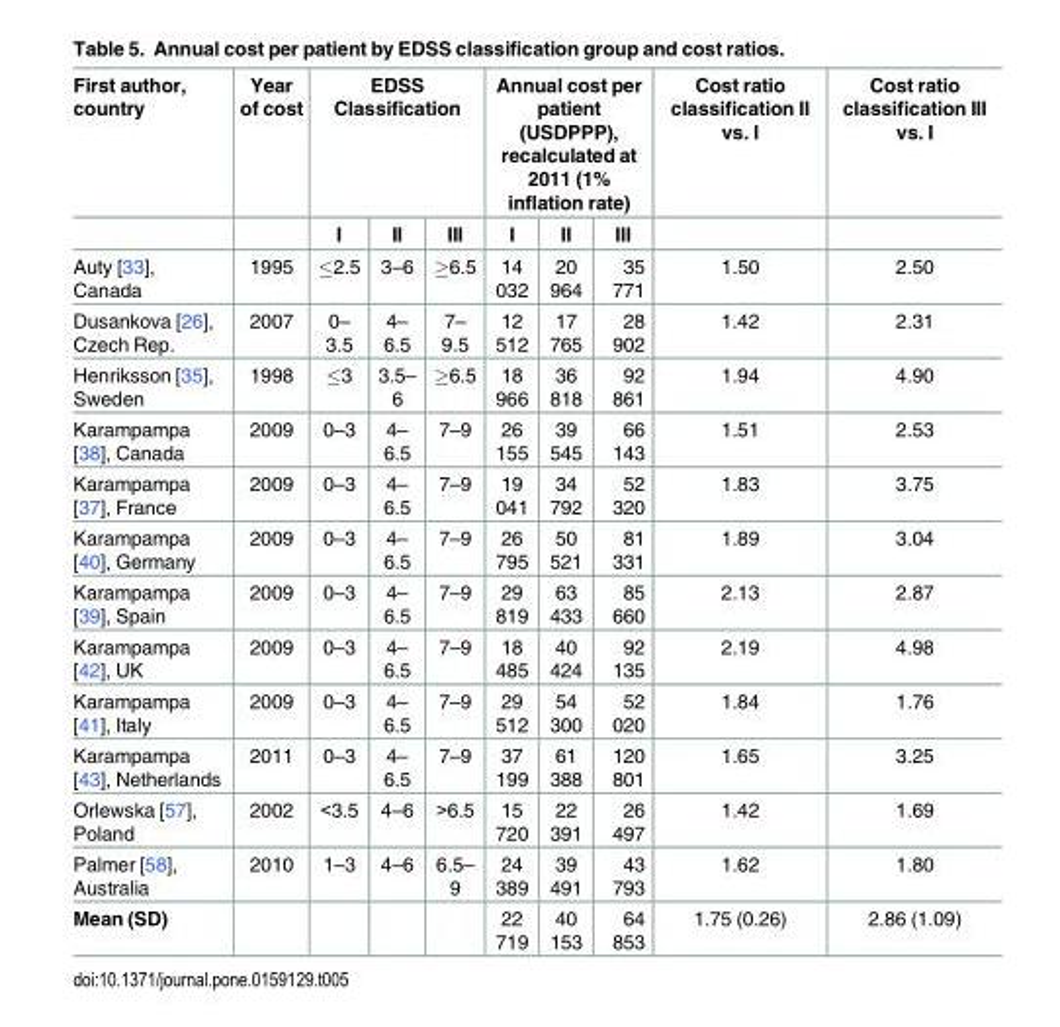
<table><thead><tr><td rowspan="2">First author, country</td><td rowspan="2">Year of cost</td><td colspan="3">EDSS Classification</td><td colspan="3">Annual cost per patient (USDPPP), recalculated at 2011 (1% inflation rate)</td><td rowspan="2">Cost ratio classification II vs. I</td><td rowspan="2">Cost ratio classification III vs. I</td></tr><tr><td>I</td><td>II</td><td>III</td><td>I</td><td>II</td><td>III</td></tr></thead><tbody><tr><td>Auty [33], Canada</td><td>1995</td><td>≤2.5</td><td>3–6</td><td>≥6.5</td><td>14 032</td><td>20 964</td><td>35 771</td><td>1.50</td><td>2.50</td></tr><tr><td>Dusankova [26], Czech Rep.</td><td>2007</td><td>0– 3.5</td><td>4– 6.5</td><td>7– 9.5</td><td>12 512</td><td>17 765</td><td>28 902</td><td>1.42</td><td>2.31</td></tr><tr><td>Henriksson [35], Sweden</td><td>1998</td><td>≤3</td><td>3.5– 6</td><td>≥6.5</td><td>18 966</td><td>36 818</td><td>92 861</td><td>1.94</td><td>4.90</td></tr><tr><td>Karampampa [38], Canada</td><td>2009</td><td>0–3</td><td>4– 6.5</td><td>7–9</td><td>26 155</td><td>39 545</td><td>66 143</td><td>1.51</td><td>2.53</td></tr><tr><td>Karampampa [37], France</td><td>2009</td><td>0–3</td><td>4– 6.5</td><td>7–9</td><td>19 041</td><td>34 792</td><td>52 320</td><td>1.83</td><td>3.75</td></tr><tr><td>Karampampa [40], Germany</td><td>2009</td><td>0–3</td><td>4– 6.5</td><td>7–9</td><td>26 795</td><td>50 521</td><td>81 331</td><td>1.89</td><td>3.04</td></tr><tr><td>Karampampa [39], Spain</td><td>2009</td><td>0–3</td><td>4– 6.5</td><td>7–9</td><td>29 819</td><td>63 433</td><td>85 660</td><td>2.13</td><td>2.87</td></tr><tr><td>Karampampa [42], UK</td><td>2009</td><td>0–3</td><td>4– 6.5</td><td>7–9</td><td>18 485</td><td>40 424</td><td>92 135</td><td>2.19</td><td>4.98</td></tr><tr><td>Karampampa [41], Italy</td><td>2009</td><td>0–3</td><td>4– 6.5</td><td>7–9</td><td>29 512</td><td>54 300</td><td>52 020</td><td>1.84</td><td>1.76</td></tr><tr><td>Karampampa [43], Netherlands</td><td>2011</td><td>0–3</td><td>4– 6.5</td><td>7–9</td><td>37 199</td><td>61 388</td><td>120 801</td><td>1.65</td><td>3.25</td></tr><tr><td>Orlewska [57], Poland</td><td>2002</td><td>&lt;3.5</td><td>4–6</td><td>&gt;6.5</td><td>15 720</td><td>22 391</td><td>26 497</td><td>1.42</td><td>1.69</td></tr><tr><td>Palmer [58], Australia</td><td>2010</td><td>1–3</td><td>4–6</td><td>6.5– 9</td><td>24 389</td><td>39 491</td><td>43 793</td><td>1.62</td><td>1.80</td></tr><tr><td>Mean (SD)</td><td></td><td></td><td></td><td></td><td>22 719</td><td>40 153</td><td>64 853</td><td>1.75 (0.26)</td><td>2.86 (1.09)</td></tr></tbody></table>